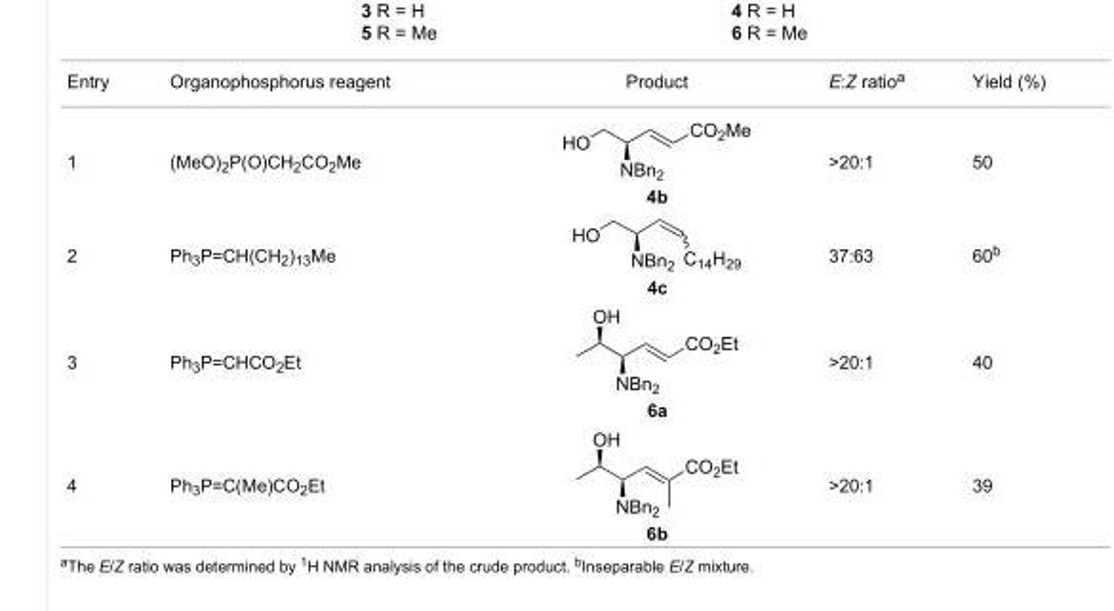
<table><tbody><tr><td>Entry</td><td>Organophosphorus reagent</td><td>Product</td><td>E:Z ratio<sup>a</sup></td><td>Yield (%)</td></tr><tr><td>1</td><td>(MeO)<sub>2</sub>P(O)CH<sub>2</sub>CO<sub>2</sub>Me</td><td>4b</td><td>&gt;20:1</td><td>50</td></tr><tr><td>2</td><td>Ph<sub>3</sub>P=CH(CH<sub>2</sub>)<sub>13</sub>Me</td><td>4c</td><td>37:63</td><td>60<sup>b</sup></td></tr><tr><td>3</td><td>Ph<sub>3</sub>P=CHCO<sub>2</sub>Et</td><td>6a</td><td>&gt;20:1</td><td>40</td></tr><tr><td>4</td><td>Ph<sub>3</sub>P=C(Me)CO<sub>2</sub>Et</td><td>6b</td><td>&gt;20:1</td><td>39</td></tr></tbody></table>